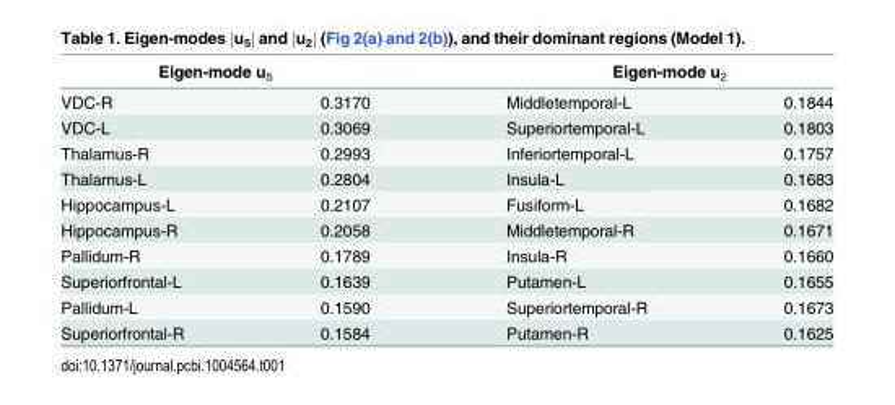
<table><thead><tr><td colspan="2">Eigen-mode u<sub>5</sub></td><td colspan="2">Eigen-mode u<sub>2</sub></td></tr><tr><td>VDC-R</td><td>0.3170</td><td>Middletemporal-L</td><td>0.1844</td></tr></thead><tbody><tr><td>VDC-L</td><td>0.3069</td><td>Superiortemporal-L</td><td>0.1803</td></tr><tr><td>Thalamus-R</td><td>0.2993</td><td>Inferiortemporal-L</td><td>0.1757</td></tr><tr><td>Thalamus-L</td><td>0.2804</td><td>Insula-L</td><td>0.1683</td></tr><tr><td>Hippocampus-L</td><td>0.2107</td><td>Fusiform-L</td><td>0.1682</td></tr><tr><td>Hippocampus-R</td><td>0.2058</td><td>Middletemporal-R</td><td>0.1671</td></tr><tr><td>Pallidum-R</td><td>0.1789</td><td>Insula-R</td><td>0.1660</td></tr><tr><td>Superiorfrontal-L</td><td>0.1639</td><td>Putamen-L</td><td>0.1655</td></tr><tr><td>Pallidum-L</td><td>0.1590</td><td>Superiortemporal-R</td><td>0.1673</td></tr><tr><td>Superiorfrontal-R</td><td>0.1584</td><td>Putamen-R</td><td>0.1625</td></tr></tbody></table>